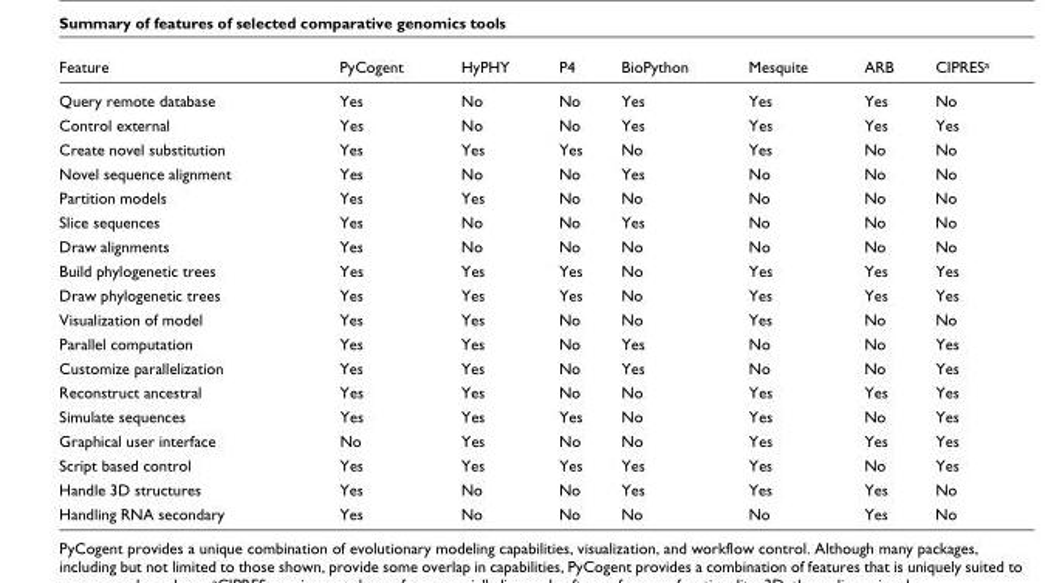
<table><thead><tr><td>Feature</td><td>PyCogent</td><td>HyPHY</td><td>P4</td><td>BioPython</td><td>Mesquite</td><td>ARB</td><td>CIPRES<sup>a</sup></td></tr></thead><tbody><tr><td>Query remote database</td><td>Yes</td><td>No</td><td>No</td><td>Yes</td><td>Yes</td><td>Yes</td><td>No</td></tr><tr><td>Control external</td><td>Yes</td><td>No</td><td>No</td><td>Yes</td><td>Yes</td><td>Yes</td><td>Yes</td></tr><tr><td>Create novel substitution</td><td>Yes</td><td>Yes</td><td>Yes</td><td>No</td><td>Yes</td><td>No</td><td>No</td></tr><tr><td>Novel sequence alignment</td><td>Yes</td><td>No</td><td>No</td><td>Yes</td><td>No</td><td>No</td><td>No</td></tr><tr><td>Partition models</td><td>Yes</td><td>Yes</td><td>No</td><td>No</td><td>No</td><td>No</td><td>No</td></tr><tr><td>Slice sequences</td><td>Yes</td><td>No</td><td>No</td><td>Yes</td><td>No</td><td>No</td><td>No</td></tr><tr><td>Draw alignments</td><td>Yes</td><td>No</td><td>No</td><td>No</td><td>No</td><td>No</td><td>No</td></tr><tr><td>Build phylogenetic trees</td><td>Yes</td><td>Yes</td><td>Yes</td><td>No</td><td>Yes</td><td>Yes</td><td>Yes</td></tr><tr><td>Draw phylogenetic trees</td><td>Yes</td><td>Yes</td><td>Yes</td><td>No</td><td>Yes</td><td>Yes</td><td>Yes</td></tr><tr><td>Visualization of model</td><td>Yes</td><td>Yes</td><td>No</td><td>No</td><td>Yes</td><td>No</td><td>No</td></tr><tr><td>Parallel computation</td><td>Yes</td><td>Yes</td><td>No</td><td>Yes</td><td>No</td><td>No</td><td>Yes</td></tr><tr><td>Customize parallelization</td><td>Yes</td><td>Yes</td><td>No</td><td>Yes</td><td>No</td><td>No</td><td>Yes</td></tr><tr><td>Reconstruct ancestral</td><td>Yes</td><td>Yes</td><td>No</td><td>No</td><td>Yes</td><td>Yes</td><td>Yes</td></tr><tr><td>Simulate sequences</td><td>Yes</td><td>Yes</td><td>Yes</td><td>No</td><td>Yes</td><td>No</td><td>Yes</td></tr><tr><td>Graphical user interface</td><td>No</td><td>Yes</td><td>No</td><td>No</td><td>Yes</td><td>Yes</td><td>Yes</td></tr><tr><td>Script based control</td><td>Yes</td><td>Yes</td><td>Yes</td><td>Yes</td><td>Yes</td><td>No</td><td>Yes</td></tr><tr><td>Handle 3D structures</td><td>Yes</td><td>No</td><td>No</td><td>Yes</td><td>Yes</td><td>Yes</td><td>No</td></tr><tr><td>Handling RNA secondary</td><td>Yes</td><td>No</td><td>No</td><td>No</td><td>No</td><td>Yes</td><td>No</td></tr></tbody></table>